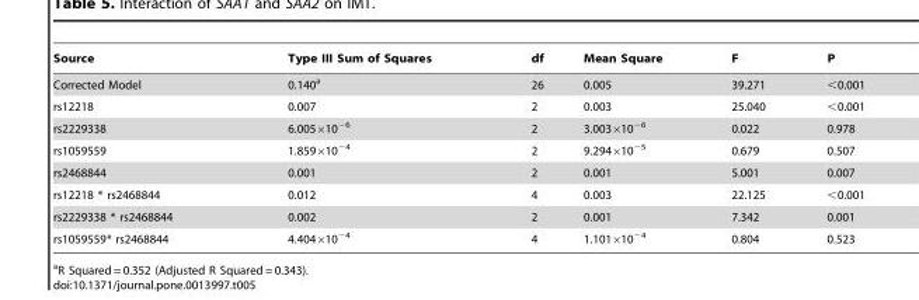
<table><thead><tr><td>Source</td><td>Type III Sum of Squares</td><td>df</td><td>Mean Square</td><td>F</td><td>P</td></tr></thead><tbody><tr><td>Corrected Model</td><td>0.140<sup>a</sup></td><td>26</td><td>0.005</td><td>39.271</td><td>&lt;0.001</td></tr><tr><td>rs12218</td><td>0.007</td><td>2</td><td>0.003</td><td>25.040</td><td>&lt;0.001</td></tr><tr><td>rs2229338</td><td>6.005×10<sup>−6</sup></td><td>2</td><td>3.003×10<sup>−6</sup></td><td>0.022</td><td>0.978</td></tr><tr><td>rs1059559</td><td>1.859×10<sup>−4</sup></td><td>2</td><td>9.294×10<sup>−5</sup></td><td>0.679</td><td>0.507</td></tr><tr><td>rs2468844</td><td>0.001</td><td>2</td><td>0.001</td><td>5.001</td><td>0.007</td></tr><tr><td>rs12218 * rs2468844</td><td>0.012</td><td>4</td><td>0.003</td><td>22.125</td><td>&lt;0.001</td></tr><tr><td>rs2229338 * rs2468844</td><td>0.002</td><td>2</td><td>0.001</td><td>7.342</td><td>0.001</td></tr><tr><td>rs1059559* rs2468844</td><td>4.404×10<sup>−4</sup></td><td>4</td><td>1.101×10<sup>−4</sup></td><td>0.804</td><td>0.523</td></tr></tbody></table>